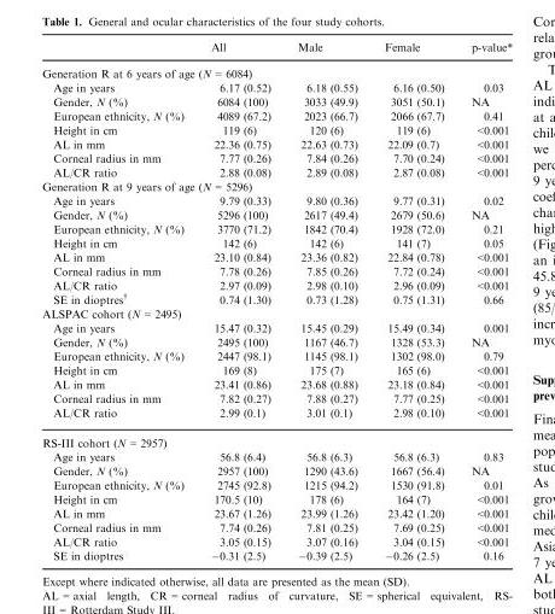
<table><thead><tr><td></td><td>All</td><td>Male</td><td>Female</td><td>p-value*</td></tr></thead><tbody><tr><td colspan="5">Generation R at 6 years of age (N = 6084)</td></tr><tr><td>Age in years</td><td>6.17 (0.52)</td><td>6.18 (0.55)</td><td>6.16 (0.50)</td><td>0.03</td></tr><tr><td>Gender, N (%)</td><td>6084 (100)</td><td>3033 (49.9)</td><td>3051 (50.1)</td><td>NA</td></tr><tr><td>European ethnicity, N (%)</td><td>4089 (67.2)</td><td>2023 (66.7)</td><td>2066 (67.7)</td><td>0.41</td></tr><tr><td>Height in cm</td><td>119 (6)</td><td>120 (6)</td><td>119 (6)</td><td>&lt;0.001</td></tr><tr><td>AL in mm</td><td>22.36 (0.75)</td><td>22.63 (0.73)</td><td>22.09 (0.7)</td><td>&lt;0.001</td></tr><tr><td>Corneal radius in mm</td><td>7.77 (0.26)</td><td>7.84 (0.26)</td><td>7.70 (0.24)</td><td>&lt;0.001</td></tr><tr><td>AL/CR ratio</td><td>2.88 (0.08)</td><td>2.89 (0.08)</td><td>2.87 (0.08)</td><td>&lt;0.001</td></tr><tr><td colspan="5">Generation R at 9 years of age (N = 5296)</td></tr><tr><td>Age in years</td><td>9.79 (0.33)</td><td>9.80 (0.36)</td><td>9.77 (0.31)</td><td>0.02</td></tr><tr><td>Gender, N (%)</td><td>5296 (100)</td><td>2617 (49.4)</td><td>2679 (50.6)</td><td>NA</td></tr><tr><td>European ethnicity, N (%)</td><td>3770 (71.2)</td><td>1842 (70.4)</td><td>1928 (72.0)</td><td>0.21</td></tr><tr><td>Height in cm</td><td>142 (6)</td><td>142 (6)</td><td>141 (7)</td><td>0.05</td></tr><tr><td>AL in mm</td><td>23.10 (0.84)</td><td>23.36 (0.82)</td><td>22.84 (0.78)</td><td>&lt;0.001</td></tr><tr><td>Corneal radius in mm</td><td>7.78 (0.26)</td><td>7.85 (0.26)</td><td>7.72 (0.24)</td><td>&lt;0.001</td></tr><tr><td>AL/CR ratio</td><td>2.97 (0.09)</td><td>2.98 (0.10)</td><td>2.96 (0.09)</td><td>&lt;0.001</td></tr><tr><td>SE in dioptres†</td><td>0.74 (1.30)</td><td>0.73 (1.28)</td><td>0.75 (1.31)</td><td>0.66</td></tr><tr><td colspan="5">ALSPAC cohort (N = 2495)</td></tr><tr><td>Age in years</td><td>15.47 (0.32)</td><td>15.45 (0.29)</td><td>15.49 (0.34)</td><td>0.001</td></tr><tr><td>Gender, N (%)</td><td>2495 (100)</td><td>1167 (46.7)</td><td>1328 (53.3)</td><td>NA</td></tr><tr><td>European ethnicity, N (%)</td><td>2447 (98.1)</td><td>1145 (98.1)</td><td>1302 (98.0)</td><td>0.79</td></tr><tr><td>Height in cm</td><td>169 (8)</td><td>175 (7)</td><td>165 (6)</td><td>&lt;0.001</td></tr><tr><td>AL in mm</td><td>23.41 (0.86)</td><td>23.68 (0.88)</td><td>23.18 (0.84)</td><td>&lt;0.001</td></tr><tr><td>Corneal radius in mm</td><td>7.82 (0.27)</td><td>7.88 (0.27)</td><td>7.77 (0.25)</td><td>&lt;0.001</td></tr><tr><td>AL/CR ratio</td><td>2.99 (0.1)</td><td>3.01 (0.1)</td><td>2.98 (0.10)</td><td>&lt;0.001</td></tr><tr><td colspan="5">RS-III cohort (N = 2957)</td></tr><tr><td>Age in years</td><td>56.8 (6.4)</td><td>56.8 (6.3)</td><td>56.8 (6.3)</td><td>0.83</td></tr><tr><td>Gender, N (%)</td><td>2957 (100)</td><td>1290 (43.6)</td><td>1667 (56.4)</td><td>NA</td></tr><tr><td>European ethnicity, N (%)</td><td>2745 (92.8)</td><td>1215 (94.2)</td><td>1530 (91.8)</td><td>0.01</td></tr><tr><td>Height in cm</td><td>170.5 (10)</td><td>178 (6)</td><td>164 (7)</td><td>&lt;0.001</td></tr><tr><td>AL in mm</td><td>23.67 (1.26)</td><td>23.99 (1.26)</td><td>23.42 (1.20)</td><td>&lt;0.001</td></tr><tr><td>Corneal radius in mm</td><td>7.74 (0.26)</td><td>7.81 (0.25)</td><td>7.69 (0.25)</td><td>&lt;0.001</td></tr><tr><td>AL/CR ratio</td><td>3.05 (0.15)</td><td>3.07 (0.16)</td><td>3.04 (0.15)</td><td>&lt;0.001</td></tr><tr><td>SE in dioptres</td><td>−0.31 (2.5)</td><td>−0.39 (2.5)</td><td>−0.26 (2.5)</td><td>0.16</td></tr></tbody></table>